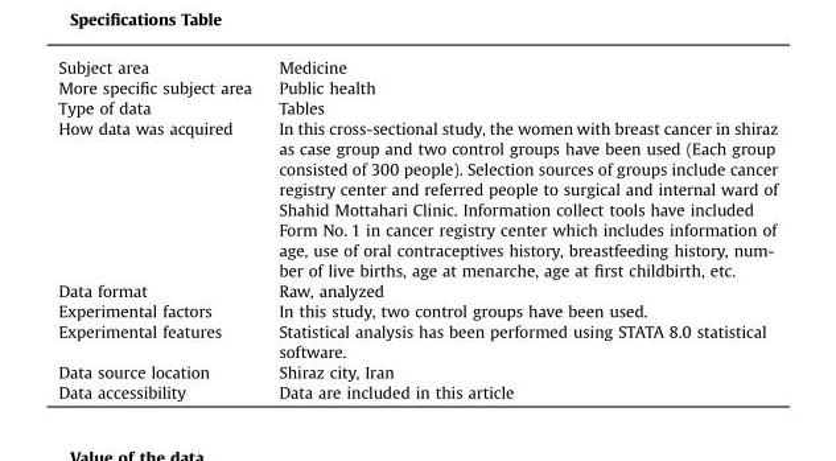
<table><tbody><tr><td>Subject area</td><td>Medicine</td></tr><tr><td>More specific subject area</td><td>Public health</td></tr><tr><td>Type of data</td><td>Tables</td></tr><tr><td>How data was acquired</td><td>In this cross-sectional study, the women with breast cancer in shiraz as case group and two control groups have been used (Each group consisted of 300 people). Selection sources of groups include cancer registry center and referred people to surgical and internal ward of Shahid Mottahari Clinic. Information collect tools have included Form No. 1 in cancer registry center which includes information of age, use of oral contraceptives history, breastfeeding history, num- ber of live births, age at menarche, age at first childbirth, etc.</td></tr><tr><td>Data format</td><td>Raw, analyzed</td></tr><tr><td>Experimental factors</td><td>In this study, two control groups have been used.</td></tr><tr><td>Experimental features</td><td>Statistical analysis has been performed using STATA 8.0 statistical software.</td></tr><tr><td>Data source location</td><td>Shiraz city, Iran</td></tr><tr><td>Data accessibility</td><td>Data are included in this article</td></tr></tbody></table>